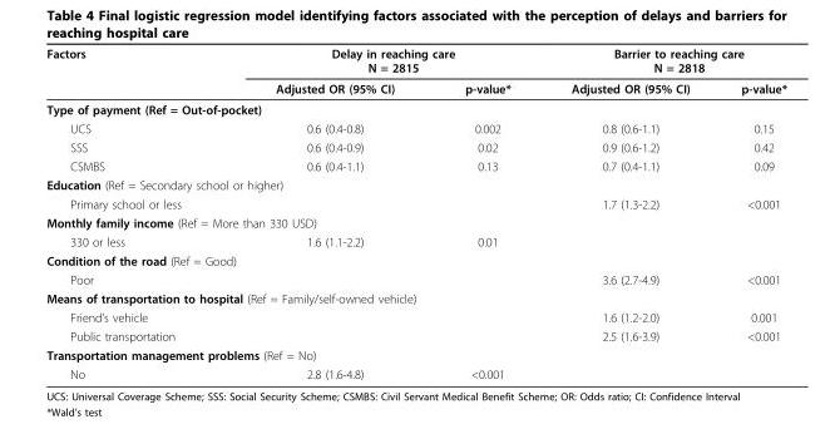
<table><thead><tr><td rowspan="2">Factors</td><td colspan="2">Delay in reaching care N = 2815</td><td colspan="2">Barrier to reaching care N = 2818</td></tr><tr><td>Adjusted OR (95% CI)</td><td>p-value*</td><td>Adjusted OR (95% CI)</td><td>p-value*</td></tr></thead><tbody><tr><td colspan="5">Type of payment (Ref = Out-of-pocket)</td></tr><tr><td>UCS</td><td>0.6 (0.4-0.8)</td><td>0.002</td><td>0.8 (0.6-1.1)</td><td>0.15</td></tr><tr><td>SSS</td><td>0.6 (0.4-0.9)</td><td>0.02</td><td>0.9 (0.6-1.2)</td><td>0.42</td></tr><tr><td>CSMBS</td><td>0.6 (0.4-1.1)</td><td>0.13</td><td>0.7 (0.4-1.1)</td><td>0.09</td></tr><tr><td colspan="5">Education (Ref = Secondary school or higher)</td></tr><tr><td colspan="2">Primary school or less</td><td></td><td>1.7 (1.3-2.2)</td><td>&lt;0.001</td></tr><tr><td colspan="5">Monthly family income (Ref = More than 330 USD)</td></tr><tr><td>330 or less</td><td>1.6 (1.1-2.2)</td><td>0.01</td><td></td><td></td></tr><tr><td colspan="5">Condition of the road (Ref = Good)</td></tr><tr><td>Poor</td><td></td><td></td><td>3.6 (2.7-4.9)</td><td>&lt;0.001</td></tr><tr><td colspan="5">Means of transportation to hospital (Ref = Family/self-owned vehicle)</td></tr><tr><td>Friend’s vehicle</td><td></td><td></td><td>1.6 (1.2-2.0)</td><td>0.001</td></tr><tr><td>Public transportation</td><td></td><td></td><td>2.5 (1.6-3.9)</td><td>&lt;0.001</td></tr><tr><td colspan="5">Transportation management problems (Ref = No)</td></tr><tr><td>No</td><td>2.8 (1.6-4.8)</td><td>&lt;0.001</td><td></td><td></td></tr></tbody></table>